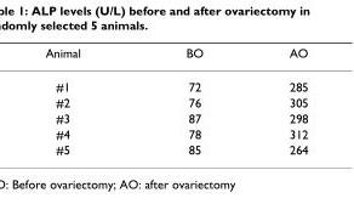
<table><thead><tr><td>Animal</td><td>BO</td><td>AO</td></tr></thead><tbody><tr><td>#1</td><td>72</td><td>285</td></tr><tr><td>#2</td><td>76</td><td>305</td></tr><tr><td>#3</td><td>87</td><td>298</td></tr><tr><td>#4</td><td>78</td><td>312</td></tr><tr><td>#5</td><td>85</td><td>264</td></tr></tbody></table>